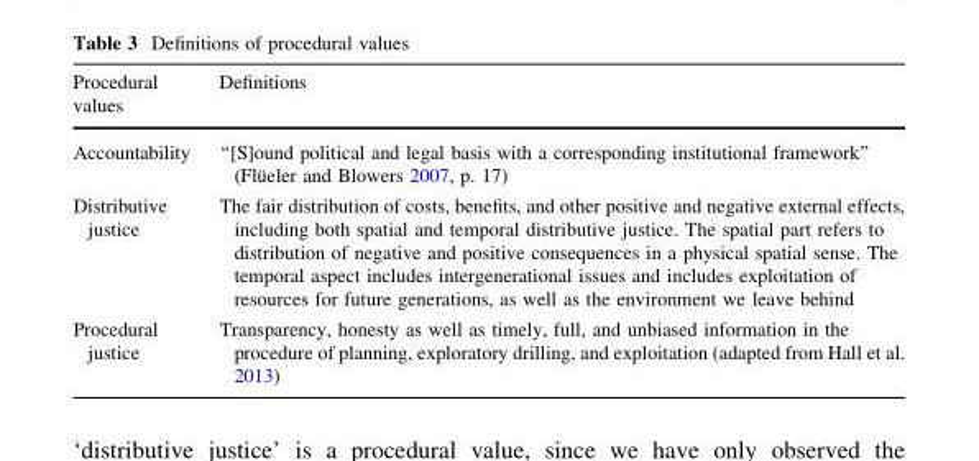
<table><thead><tr><td>Procedural values</td><td>Definitions</td></tr></thead><tbody><tr><td>Accountability</td><td>‘‘[S]ound political and legal basis with a corresponding institutional framework’’ (Flu¨eler and Blowers 2007, p. 17)</td></tr><tr><td>Distributive justice</td><td>The fair distribution of costs, benefits, and other positive and negative external effects, including both spatial and temporal distributive justice. The spatial part refers to distribution of negative and positive consequences in a physical spatial sense. The temporal aspect includes intergenerational issues and includes exploitation of resources for future generations, as well as the environment we leave behind</td></tr><tr><td>Procedural justice</td><td>Transparency, honesty as well as timely, full, and unbiased information in the procedure of planning, exploratory drilling, and exploitation (adapted from Hall et al. 2013)</td></tr></tbody></table>